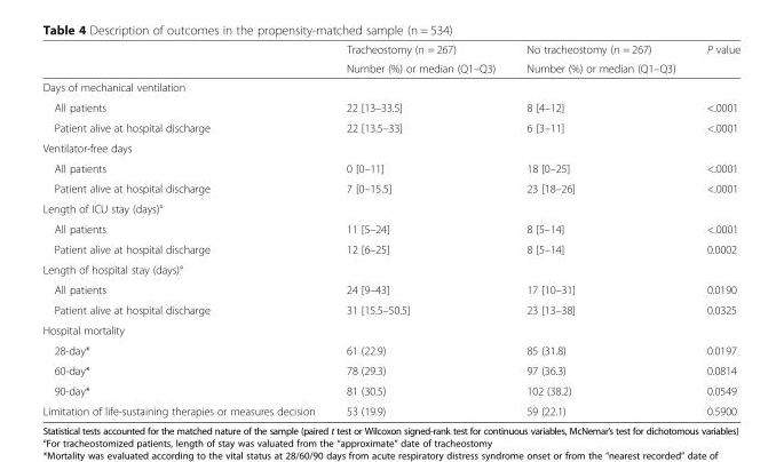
<table><thead><tr><td rowspan="2"></td><td rowspan="2">Tracheostomy (n = 267) Number (%) or median (Q1–Q3)</td><td rowspan="2">No tracheostomy (n = 267) Number (%) or median (Q1–Q3)</td><td rowspan="2">P value</td></tr><tr></tr></thead><tbody><tr><td colspan="4">Days of mechanical ventilation</td></tr><tr><td>All patients</td><td>22 [13–33.5]</td><td>8 [4–12]</td><td>&lt;.0001</td></tr><tr><td>Patient alive at hospital discharge</td><td>22 [13.5–33]</td><td>6 [3–11]</td><td>&lt;.0001</td></tr><tr><td colspan="4">Ventilator-free days</td></tr><tr><td>All patients</td><td>0 [0–11]</td><td>18 [0–25]</td><td>&lt;.0001</td></tr><tr><td>Patient alive at hospital discharge</td><td>7 [0–15.5]</td><td>23 [18–26]</td><td>&lt;.0001</td></tr><tr><td colspan="4">Length of ICU stay (days)°</td></tr><tr><td>All patients</td><td>11 [5–24]</td><td>8 [5–14]</td><td>&lt;.0001</td></tr><tr><td>Patient alive at hospital discharge</td><td>12 [6–25]</td><td>8 [5–14]</td><td>0.0002</td></tr><tr><td colspan="4">Length of hospital stay (days)°</td></tr><tr><td>All patients</td><td>24 [9–43]</td><td>17 [10–31]</td><td>0.0190</td></tr><tr><td>Patient alive at hospital discharge</td><td>31 [15.5–50.5]</td><td>23 [13–38]</td><td>0.0325</td></tr><tr><td colspan="4">Hospital mortality</td></tr><tr><td>28-day*</td><td>61 (22.9)</td><td>85 (31.8)</td><td>0.0197</td></tr><tr><td>60-day*</td><td>78 (29.3)</td><td>97 (36.3)</td><td>0.0814</td></tr><tr><td>90-day*</td><td>81 (30.5)</td><td>102 (38.2)</td><td>0.0549</td></tr><tr><td>Limitation of life-sustaining therapies or measures decision</td><td>53 (19.9)</td><td>59 (22.1)</td><td>0.5900</td></tr></tbody></table>